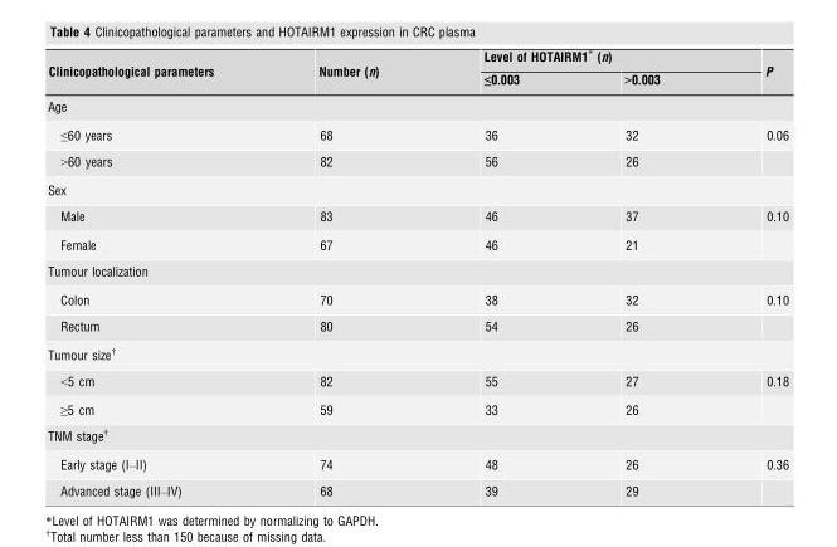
<table><thead><tr><td rowspan="2">Clinicopathological parameters</td><td rowspan="2">Number (n)</td><td colspan="2">Level of HOTAIRM1* (n)</td><td rowspan="2">P</td></tr><tr><td>≤0.003</td><td>&gt;0.003</td></tr></thead><tbody><tr><td colspan="5">Age</td></tr><tr><td>≤60 years</td><td>68</td><td>36</td><td>32</td><td>0.06</td></tr><tr><td>&gt;60 years</td><td>82</td><td>56</td><td>26</td><td></td></tr><tr><td colspan="5">Sex</td></tr><tr><td>Male</td><td>83</td><td>46</td><td>37</td><td>0.10</td></tr><tr><td>Female</td><td>67</td><td>46</td><td>21</td><td></td></tr><tr><td colspan="5">Tumour localization</td></tr><tr><td>Colon</td><td>70</td><td>38</td><td>32</td><td>0.10</td></tr><tr><td>Rectum</td><td>80</td><td>54</td><td>26</td><td></td></tr><tr><td colspan="5">Tumour size†</td></tr><tr><td>&lt;5 cm</td><td>82</td><td>55</td><td>27</td><td>0.18</td></tr><tr><td>≥5 cm</td><td>59</td><td>33</td><td>26</td><td></td></tr><tr><td colspan="5">TNM stage†</td></tr><tr><td>Early stage (I–II)</td><td>74</td><td>48</td><td>26</td><td>0.36</td></tr><tr><td>Advanced stage (III–IV)</td><td>68</td><td>39</td><td>29</td><td></td></tr></tbody></table>